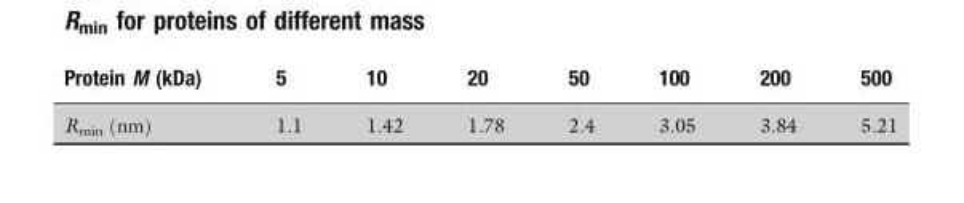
<table><thead><tr><td>Protein M (kDa)</td><td>5</td><td>10</td><td>20</td><td>50</td><td>100</td><td>200</td><td>500</td></tr></thead><tbody><tr><td>R<sub>min</sub> (nm)</td><td>1.1</td><td>1.42</td><td>1.78</td><td>2.4</td><td>3.05</td><td>3.84</td><td>5.21</td></tr></tbody></table>